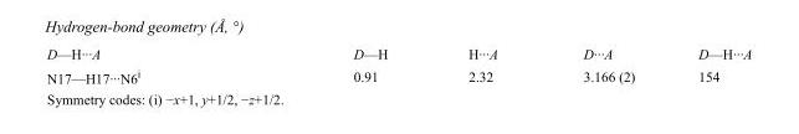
<table><tbody><tr><td>D—H···A</td><td>D—H</td><td>H···A</td><td>D···A</td><td>D—H···A</td></tr><tr><td>N17—H17···N6<sup>i</sup></td><td>0.91</td><td>2.32</td><td>3.166 (2)</td><td>154</td></tr></tbody></table>